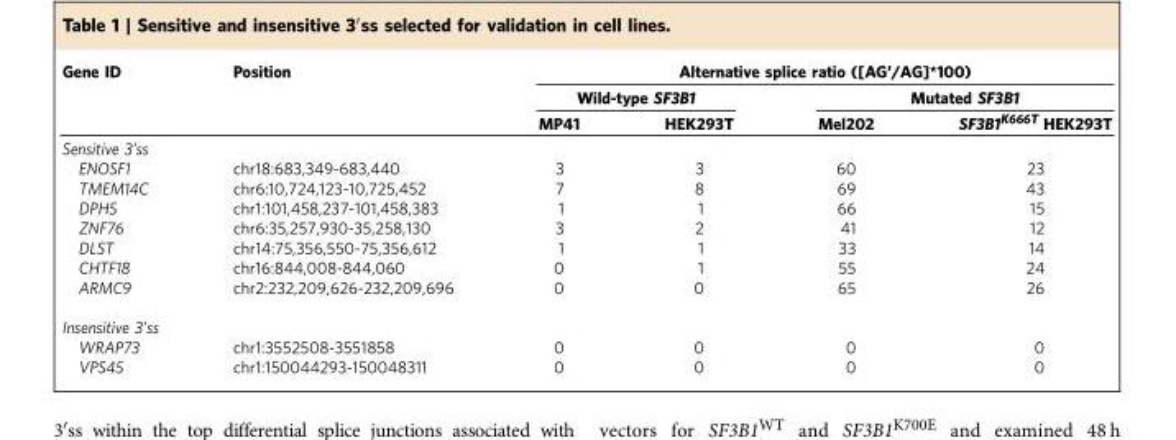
<table><thead><tr><td rowspan="3">Gene ID</td><td rowspan="3">Position</td><td colspan="4">Alternative splice ratio ([AG’/AG]*100)</td></tr><tr><td colspan="2">Wild-type SF3B1</td><td colspan="2">Mutated SF3B1</td></tr><tr><td>MP41</td><td>HEK293T</td><td>Mel202</td><td>SF3B1<sup>K666T</sup> HEK293T</td></tr></thead><tbody><tr><td colspan="6">Sensitive 3’ss</td></tr><tr><td>ENOSF1</td><td>chr18:683,349-683,440</td><td>3</td><td>3</td><td>60</td><td>23</td></tr><tr><td>TMEM14C</td><td>chr6:10,724,123-10,725,452</td><td>7</td><td>8</td><td>69</td><td>43</td></tr><tr><td>DPH5</td><td>chr1:101,458,237-101,458,383</td><td>1</td><td>1</td><td>66</td><td>15</td></tr><tr><td>ZNF76</td><td>chr6:35,257,930-35,258,130</td><td>3</td><td>2</td><td>41</td><td>12</td></tr><tr><td>DLST</td><td>chr14:75,356,550-75,356,612</td><td>1</td><td>1</td><td>33</td><td>14</td></tr><tr><td>CHTF18</td><td>chr16:844,008-844,060</td><td>0</td><td>1</td><td>55</td><td>24</td></tr><tr><td>ARMC9</td><td>chr2:232,209,626-232,209,696</td><td>0</td><td>0</td><td>65</td><td>26</td></tr><tr><td colspan="6">Insensitive 3’ss</td></tr><tr><td>WRAP73</td><td>chr1:3552508-3551858</td><td>0</td><td>0</td><td>0</td><td>0</td></tr><tr><td>VPS45</td><td>chr1:150044293-150048311</td><td>0</td><td>0</td><td>0</td><td>0</td></tr></tbody></table>